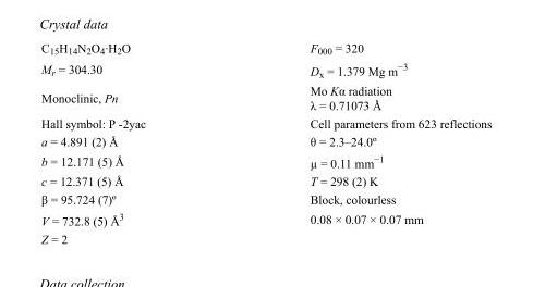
<table><tbody><tr><td>C<sub>15</sub>H<sub>14</sub>N<sub>2</sub>O<sub>4</sub>·H<sub>2</sub>O</td><td>F000 = 320</td></tr><tr><td>M<sub>r</sub> = 304.30</td><td>D<sub>x</sub> = 1.379 Mg m<sup>−3</sup></td></tr><tr><td>Monoclinic, Pn</td><td>Mo Kα radiation λ = 0.71073 Å</td></tr><tr><td>Hall symbol: P -2yac</td><td>Cell parameters from 623 reflections</td></tr><tr><td>a = 4.891 (2) Å</td><td>θ = 2.3–24.0º</td></tr><tr><td>b = 12.171 (5) Å</td><td>µ = 0.11 mm<sup>−1</sup></td></tr><tr><td>c = 12.371 (5) Å</td><td>T = 298 (2) K</td></tr><tr><td>β = 95.724 (7)º</td><td>Block, colourless</td></tr><tr><td>V = 732.8 (5) Å<sup>3</sup></td><td>0.08 × 0.07 × 0.07 mm</td></tr><tr><td>Z = 2</td><td></td></tr></tbody></table>